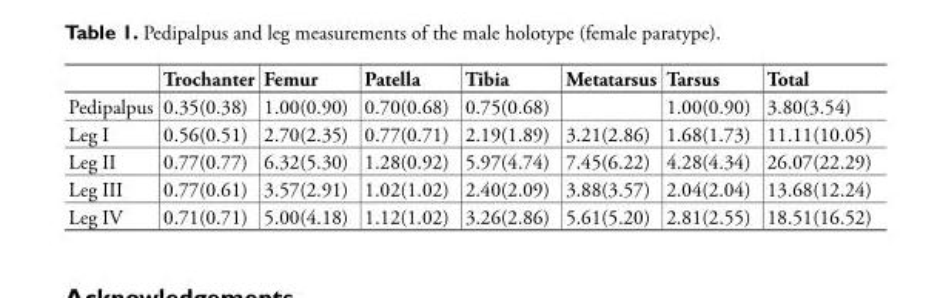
<table><thead><tr><td></td><td>Trochanter</td><td>Femur</td><td>Patella</td><td>Tibia</td><td>Metatarsus</td><td>Tarsus</td><td>Total</td></tr></thead><tbody><tr><td>Pedipalpus</td><td>0.35(0.38)</td><td>1.00(0.90)</td><td>0.70(0.68)</td><td>0.75(0.68)</td><td></td><td>1.00(0.90)</td><td>3.80(3.54)</td></tr><tr><td>Leg I</td><td>0.56(0.51)</td><td>2.70(2.35)</td><td>0.77(0.71)</td><td>2.19(1.89)</td><td>3.21(2.86)</td><td>1.68(1.73)</td><td>11.11(10.05)</td></tr><tr><td>Leg II</td><td>0.77(0.77)</td><td>6.32(5.30)</td><td>1.28(0.92)</td><td>5.97(4.74)</td><td>7.45(6.22)</td><td>4.28(4.34)</td><td>26.07(22.29)</td></tr><tr><td>Leg III</td><td>0.77(0.61)</td><td>3.57(2.91)</td><td>1.02(1.02)</td><td>2.40(2.09)</td><td>3.88(3.57)</td><td>2.04(2.04)</td><td>13.68(12.24)</td></tr><tr><td>Leg IV</td><td>0.71(0.71)</td><td>5.00(4.18)</td><td>1.12(1.02)</td><td>3.26(2.86)</td><td>5.61(5.20)</td><td>2.81(2.55)</td><td>18.51(16.52)</td></tr></tbody></table>